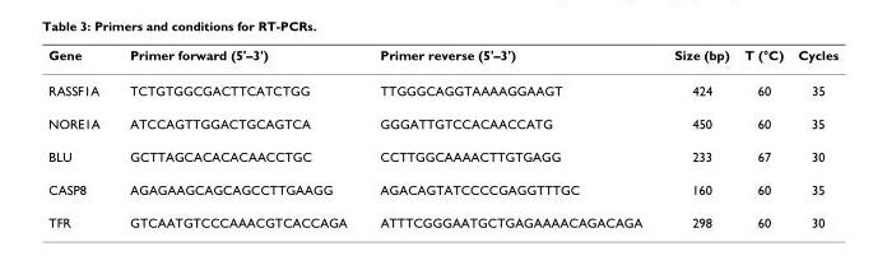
<table><thead><tr><td>Gene</td><td>Primer forward (5&#x27;–3&#x27;)</td><td>Primer reverse (5&#x27;–3&#x27;)</td><td>Size (bp)</td><td>T (°C)</td><td>Cycles</td></tr></thead><tbody><tr><td>RASSF1A</td><td>TCTGTGGCGACTTCATCTGG</td><td>TTGGGCAGGTAAAAGGAAGT</td><td>424</td><td>60</td><td>35</td></tr><tr><td>NORE1A</td><td>ATCCAGTTGGACTGCAGTCA</td><td>GGGATTGTCCACAACCATG</td><td>450</td><td>60</td><td>35</td></tr><tr><td>BLU</td><td>GCTTAGCACACACAACCTGC</td><td>CCTTGGCAAAACTTGTGAGG</td><td>233</td><td>67</td><td>30</td></tr><tr><td>CASP8</td><td>AGAGAAGCAGCAGCCTTGAAGG</td><td>AGACAGTATCCCCGAGGTTTGC</td><td>160</td><td>60</td><td>35</td></tr><tr><td>TFR</td><td>GTCAATGTCCCAAACGTCACCAGA</td><td>ATTTCGGGAATGCTGAGAAAACAGACAGA</td><td>298</td><td>60</td><td>30</td></tr></tbody></table>